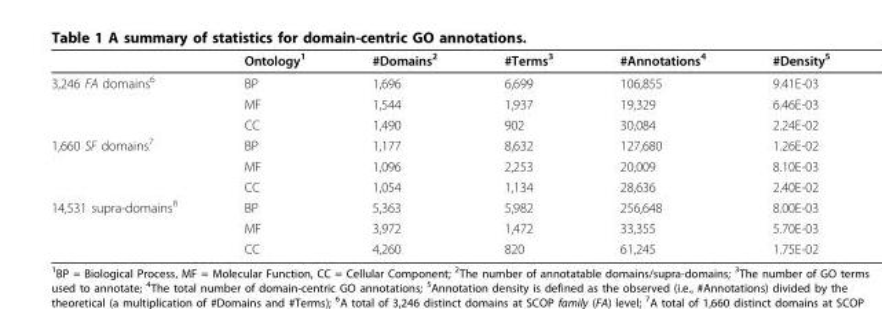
<table><thead><tr><td></td><td>Ontology<sup>1</sup></td><td>#Domains<sup>2</sup></td><td>#Terms<sup>3</sup></td><td>#Annotations<sup>4</sup></td><td>#Density<sup>5</sup></td></tr></thead><tbody><tr><td rowspan="3">3,246 FA domains<sup>6</sup></td><td>BP</td><td>1,696</td><td>6,699</td><td>106,855</td><td>9.41E-03</td></tr><tr><td>MF</td><td>1,544</td><td>1,937</td><td>19,329</td><td>6.46E-03</td></tr><tr><td>CC</td><td>1,490</td><td>902</td><td>30,084</td><td>2.24E-02</td></tr><tr><td rowspan="3">1,660 SF domains<sup>7</sup></td><td>BP</td><td>1,177</td><td>8,632</td><td>127,680</td><td>1.26E-02</td></tr><tr><td>MF</td><td>1,096</td><td>2,253</td><td>20,009</td><td>8.10E-03</td></tr><tr><td>CC</td><td>1,054</td><td>1,134</td><td>28,636</td><td>2.40E-02</td></tr><tr><td rowspan="3">14,531 supra-domains<sup>8</sup></td><td>BP</td><td>5,363</td><td>5,982</td><td>256,648</td><td>8.00E-03</td></tr><tr><td>MF</td><td>3,972</td><td>1,472</td><td>33,355</td><td>5.70E-03</td></tr><tr><td>CC</td><td>4,260</td><td>820</td><td>61,245</td><td>1.75E-02</td></tr></tbody></table>